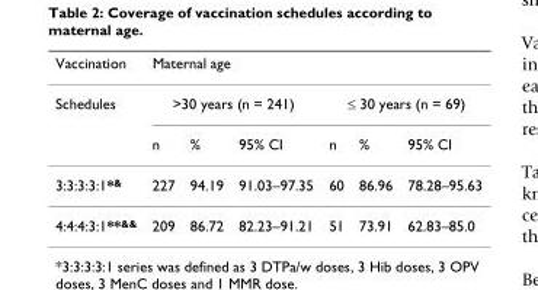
<table><thead><tr><td rowspan="3">Vaccination Schedules</td><td colspan="6">Maternal age</td></tr><tr><td colspan="3">&gt;30 years (n = 241)</td><td colspan="3">≤ 30 years (n = 69)</td></tr><tr><td>n</td><td>%</td><td>95% CI</td><td>n</td><td>%</td><td>95% CI</td></tr></thead><tbody><tr><td>3:3:3:3:1*<sup>&amp;</sup></td><td>227</td><td>94.19</td><td>91.03–97.35</td><td>60</td><td>86.96</td><td>78.28–95.63</td></tr><tr><td>4:4:4:3:1**<sup>&amp;&amp;</sup></td><td>209</td><td>86.72</td><td>82.23–91.21</td><td>51</td><td>73.91</td><td>62.83–85.0</td></tr></tbody></table>